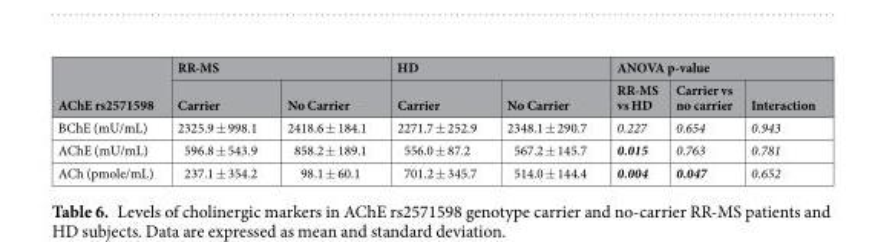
<table><thead><tr><td rowspan="2">AChE rs2571598</td><td colspan="2">RR-MS</td><td colspan="2">HD</td><td colspan="3">ANOVA p-value</td></tr><tr><td>Carrier</td><td>No Carrier</td><td>Carrier</td><td>No Carrier</td><td>RR-MS vs HD</td><td>Carrier vs no carrier</td><td>Interaction</td></tr></thead><tbody><tr><td>BChE (mU/mL)</td><td>2325.9 ± 998.1</td><td>2418.6 ± 184.1</td><td>2271.7 ± 252.9</td><td>2348.1 ± 290.7</td><td>0.227</td><td>0.654</td><td>0.943</td></tr><tr><td>AChE (mU/mL)</td><td>596.8 ± 543.9</td><td>858.2 ± 189.1</td><td>556.0 ± 87.2</td><td>567.2 ± 145.7</td><td>0.015</td><td>0.763</td><td>0.781</td></tr><tr><td>ACh (pmole/mL)</td><td>237.1 ± 354.2</td><td>98.1 ± 60.1</td><td>701.2 ± 345.7</td><td>514.0 ± 144.4</td><td>0.004</td><td>0.047</td><td>0.652</td></tr></tbody></table>